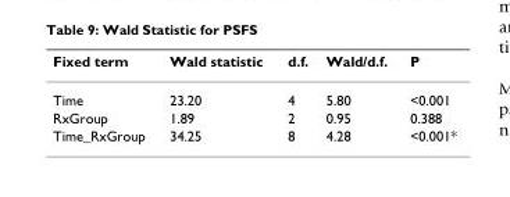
<table><thead><tr><td>Fixed term</td><td>Wald statistic</td><td>d.f.</td><td>Wald/d.f.</td><td>P</td></tr></thead><tbody><tr><td>Time</td><td>23.20</td><td>4</td><td>5.80</td><td>&lt;0.001</td></tr><tr><td>RxGroup</td><td>1.89</td><td>2</td><td>0.95</td><td>0.388</td></tr><tr><td>Time_RxGroup</td><td>34.25</td><td>8</td><td>4.28</td><td>&lt;0.001*</td></tr></tbody></table>